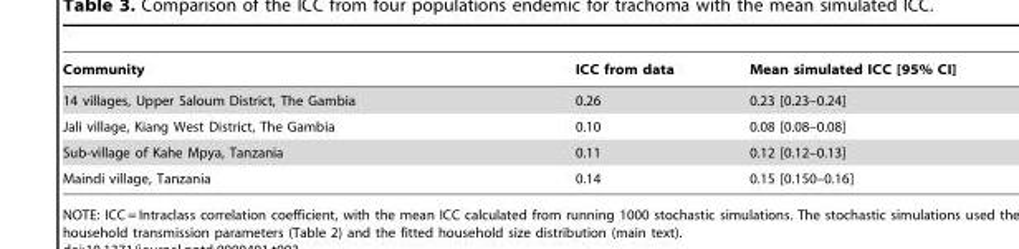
<table><thead><tr><td>Community</td><td>ICC from data</td><td>Mean simulated ICC [95% CI]</td></tr></thead><tbody><tr><td>14 villages, Upper Saloum District, The Gambia</td><td>0.26</td><td>0.23 [0.23–0.24]</td></tr><tr><td>Jali village, Kiang West District, The Gambia</td><td>0.10</td><td>0.08 [0.08–0.08]</td></tr><tr><td>Sub-village of Kahe Mpya, Tanzania</td><td>0.11</td><td>0.12 [0.12–0.13]</td></tr><tr><td>Maindi village, Tanzania</td><td>0.14</td><td>0.15 [0.150–0.16]</td></tr></tbody></table>